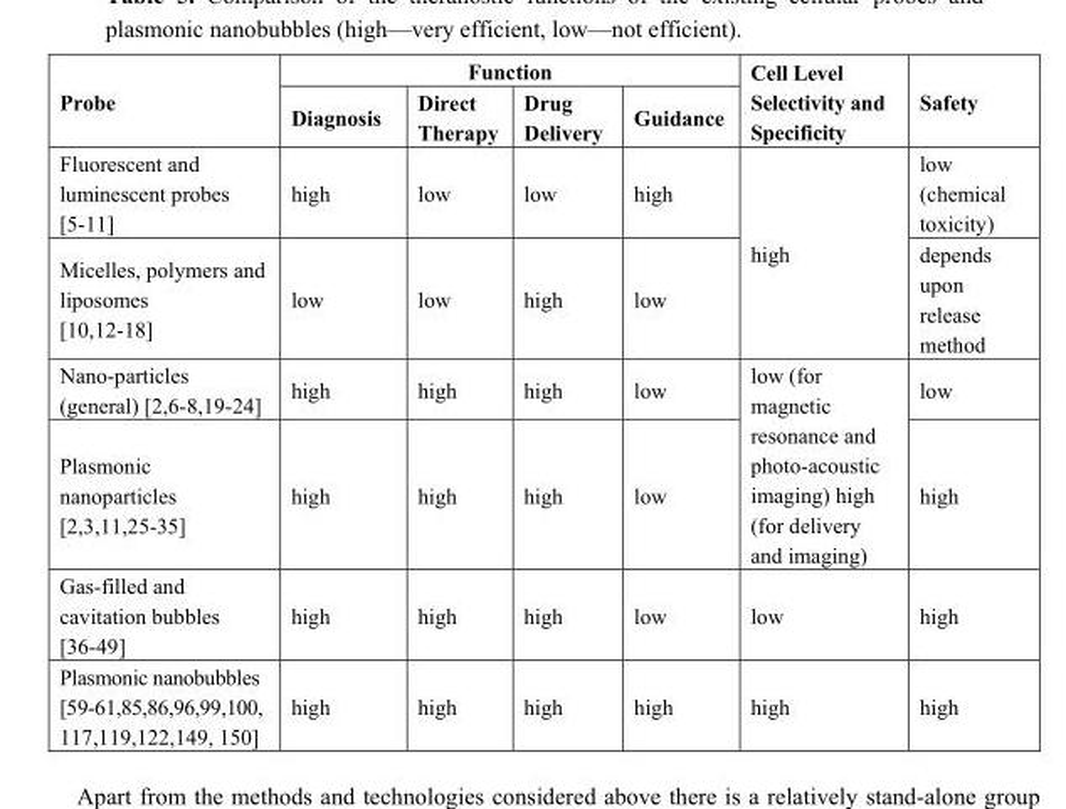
<table><thead><tr><td rowspan="2">Probe</td><td colspan="4">Function</td><td rowspan="2">Cell Level Selectivity and Specificity</td><td rowspan="2">Safety</td></tr><tr><td>Diagnosis</td><td>Direct Therapy</td><td>Drug Delivery</td><td>Guidance</td></tr></thead><tbody><tr><td>Fluorescent and luminescent probes [5-11]</td><td>high</td><td>low</td><td>low</td><td>high</td><td rowspan="2">high</td><td>low (chemical toxicity)</td></tr><tr><td>Micelles, polymers and liposomes [10,12-18]</td><td>low</td><td>low</td><td>high</td><td>low</td><td>depends upon release method</td></tr><tr><td>Nano-particles (general) [2,6-8,19-24]</td><td>high</td><td>high</td><td>high</td><td>low</td><td rowspan="2">low (for magnetic resonance and photo-acoustic imaging) high (for delivery and imaging)</td><td>low</td></tr><tr><td>Plasmonic nanoparticles [2,3,11,25-35]</td><td>high</td><td>high</td><td>high</td><td>low</td><td>high</td></tr><tr><td>Gas-filled and cavitation bubbles [36-49]</td><td>high</td><td>high</td><td>high</td><td>low</td><td>low</td><td>high</td></tr><tr><td>Plasmonic nanobubbles [59-61,85,86,96,99,100, 117,119,122,149, 150]</td><td>high</td><td>high</td><td>high</td><td>high</td><td>high</td><td>high</td></tr></tbody></table>